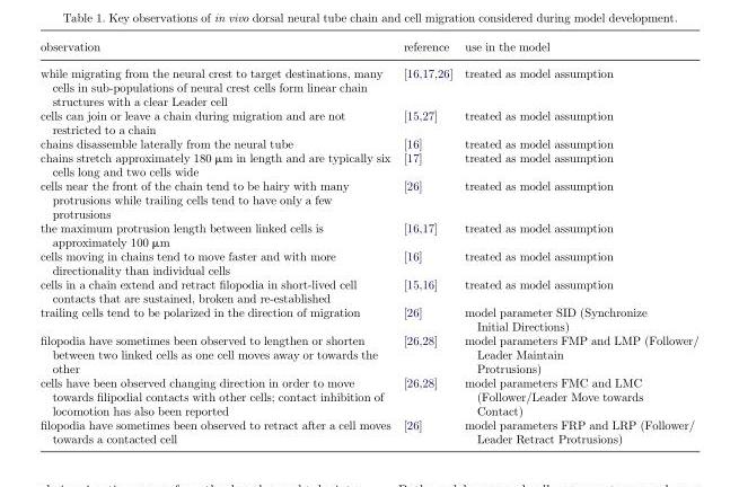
<table><thead><tr><td>observation</td><td>reference</td><td>use in the model</td></tr></thead><tbody><tr><td>while migrating from the neural crest to target destinations, many cells in sub-populations of neural crest cells form linear chain structures with a clear Leader cell</td><td>[16,17,26]</td><td>treated as model assumption</td></tr><tr><td>cells can join or leave a chain during migration and are not restricted to a chain</td><td>[15,27]</td><td>treated as model assumption</td></tr><tr><td>chains disassemble laterally from the neural tube</td><td>[16]</td><td>treated as model assumption</td></tr><tr><td>chains stretch approximately 180 µm in length and are typically six cells long and two cells wide</td><td>[17]</td><td>treated as model assumption</td></tr><tr><td>cells near the front of the chain tend to be hairy with many protrusions while trailing cells tend to have only a few protrusions</td><td>[26]</td><td>treated as model assumption</td></tr><tr><td>the maximum protrusion length between linked cells is approximately 100 µm</td><td>[16,17]</td><td>treated as model assumption</td></tr><tr><td>cells moving in chains tend to move faster and with more directionality than individual cells</td><td>[16]</td><td>treated as model assumption</td></tr><tr><td>cells in a chain extend and retract filopodia in short-lived cell contacts that are sustained, broken and re-established</td><td>[15,16]</td><td>treated as model assumption</td></tr><tr><td>trailing cells tend to be polarized in the direction of migration</td><td>[26]</td><td>model parameter SID (Synchronize Initial Directions)</td></tr><tr><td>filopodia have sometimes been observed to lengthen or shorten between two linked cells as one cell moves away or towards the other</td><td>[26,28]</td><td>model parameters FMP and LMP (Follower/ Leader Maintain Protrusions)</td></tr><tr><td>cells have been observed changing direction in order to move towards filipodial contacts with other cells; contact inhibition of locomotion has also been reported</td><td>[26,28]</td><td>model parameters FMC and LMC (Follower/Leader Move towards Contact)</td></tr><tr><td>filopodia have sometimes been observed to retract after a cell moves towards a contacted cell</td><td>[26]</td><td>model parameters FRP and LRP (Follower/ Leader Retract Protrusions)</td></tr></tbody></table>